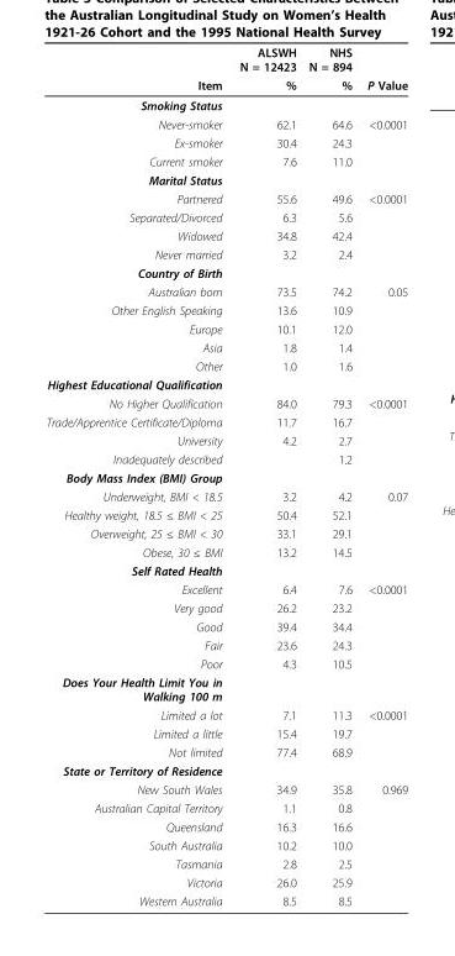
<table><thead><tr><td rowspan="2">Item</td><td rowspan="2">ALSWH N = 12423 %</td><td rowspan="2">NHS N = 894 %</td><td rowspan="2">P Value</td></tr><tr></tr></thead><tbody><tr><td colspan="4">Smoking Status</td></tr><tr><td>Never-smoker</td><td>62.1</td><td>64.6</td><td>&lt;0.0001</td></tr><tr><td>Ex-smoker</td><td>30.4</td><td>24.3</td><td></td></tr><tr><td>Current smoker</td><td>7.6</td><td>11.0</td><td></td></tr><tr><td colspan="4">Marital Status</td></tr><tr><td>Partnered</td><td>55.6</td><td>49.6</td><td>&lt;0.0001</td></tr><tr><td>Separated/Divorced</td><td>6.3</td><td>5.6</td><td></td></tr><tr><td>Widowed</td><td>34.8</td><td>42.4</td><td></td></tr><tr><td>Never married</td><td>3.2</td><td>2.4</td><td></td></tr><tr><td colspan="4">Country of Birth</td></tr><tr><td>Australian born</td><td>73.5</td><td>74.2</td><td>0.05</td></tr><tr><td>Other English Speaking</td><td>13.6</td><td>10.9</td><td></td></tr><tr><td>Europe</td><td>10.1</td><td>12.0</td><td></td></tr><tr><td>Asia</td><td>1.8</td><td>1.4</td><td></td></tr><tr><td>Other</td><td>1.0</td><td>1.6</td><td></td></tr><tr><td colspan="4">Highest Educational Qualification</td></tr><tr><td>No Higher Qualification</td><td>84.0</td><td>79.3</td><td>&lt;0.0001</td></tr><tr><td>Trade/Apprentice Certificate/Diploma</td><td>11.7</td><td>16.7</td><td></td></tr><tr><td>University</td><td>4.2</td><td>2.7</td><td></td></tr><tr><td>Inadequately described</td><td></td><td>1.2</td><td></td></tr><tr><td colspan="4">Body Mass Index (BMI) Group</td></tr><tr><td>Underweight, BMI &lt; 18.5</td><td>3.2</td><td>4.2</td><td>0.07</td></tr><tr><td>Healthy weight, 18.5 ≤ BMI &lt; 25</td><td>50.4</td><td>52.1</td><td></td></tr><tr><td>Overweight, 25 ≤ BMI &lt; 30</td><td>33.1</td><td>29.1</td><td></td></tr><tr><td>Obese, 30 ≤ BMI</td><td>13.2</td><td>14.5</td><td></td></tr><tr><td colspan="4">Self Rated Health</td></tr><tr><td>Excellent</td><td>6.4</td><td>7.6</td><td>&lt;0.0001</td></tr><tr><td>Very good</td><td>26.2</td><td>23.2</td><td></td></tr><tr><td>Good</td><td>39.4</td><td>34.4</td><td></td></tr><tr><td>Fair</td><td>23.6</td><td>24.3</td><td></td></tr><tr><td>Poor</td><td>4.3</td><td>10.5</td><td></td></tr><tr><td colspan="4">Does Your Health Limit You in Walking 100 m</td></tr><tr><td>Limited a lot</td><td>7.1</td><td>11.3</td><td>&lt;0.0001</td></tr><tr><td>Limited a little</td><td>15.4</td><td>19.7</td><td></td></tr><tr><td>Not limited</td><td>77.4</td><td>68.9</td><td></td></tr><tr><td colspan="4">State or Territory of Residence</td></tr><tr><td>New South Wales</td><td>34.9</td><td>35.8</td><td>0.969</td></tr><tr><td>Australian Capital Territory</td><td>1.1</td><td>0.8</td><td></td></tr><tr><td>Queensland</td><td>16.3</td><td>16.6</td><td></td></tr><tr><td>South Australia</td><td>10.2</td><td>10.0</td><td></td></tr><tr><td>Tasmania</td><td>2.8</td><td>2.5</td><td></td></tr><tr><td>Victoria</td><td>26.0</td><td>25.9</td><td></td></tr><tr><td>Western Australia</td><td>8.5</td><td>8.5</td><td></td></tr></tbody></table>